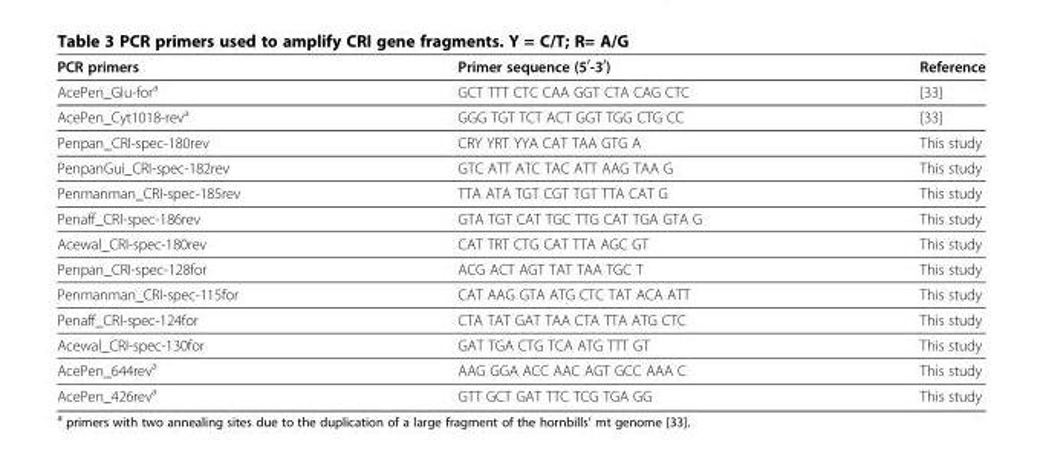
<table><thead><tr><td>PCR primers</td><td>Primer sequence (5′-3′)</td><td>Reference</td></tr></thead><tbody><tr><td>AcePen_Glu-for<sup>a</sup></td><td>GCT TTT CTC CAA GGT CTA CAG CTC</td><td>[33]</td></tr><tr><td>AcePen_Cyt1018-rev<sup>a</sup></td><td>GGG TGT TCT ACT GGT TGG CTG CC</td><td>[33]</td></tr><tr><td>Penpan_CRI-spec-180rev</td><td>CRY YRT YYA CAT TAA GTG A</td><td>This study</td></tr><tr><td>PenpanGui_CRI-spec-182rev</td><td>GTC ATT ATC TAC ATT AAG TAA G</td><td>This study</td></tr><tr><td>Penmanman_CRI-spec-185rev</td><td>TTA ATA TGT CGT TGT TTA CAT G</td><td>This study</td></tr><tr><td>Penaff_CRI-spec-186rev</td><td>GTA TGT CAT TGC TTG CAT TGA GTA G</td><td>This study</td></tr><tr><td>Acewal_CRI-spec-180rev</td><td>CAT TRT CTG CAT TTA AGC GT</td><td>This study</td></tr><tr><td>Penpan_CRI-spec-128for</td><td>ACG ACT AGT TAT TAA TGC T</td><td>This study</td></tr><tr><td>Penmanman_CRI-spec-115for</td><td>CAT AAG GTA ATG CTC TAT ACA ATT</td><td>This study</td></tr><tr><td>Penaff_CRI-spec-124for</td><td>CTA TAT GAT TAA CTA TTA ATG CTC</td><td>This study</td></tr><tr><td>Acewal_CRI-spec-130for</td><td>GAT TGA CTG TCA ATG TTT GT</td><td>This study</td></tr><tr><td>AcePen_644rev<sup>a</sup></td><td>AAG GGA ACC AAC AGT GCC AAA C</td><td>This study</td></tr><tr><td>AcePen_426rev<sup>a</sup></td><td>GTT GCT GAT TTC TCG TGA GG</td><td>This study</td></tr></tbody></table>